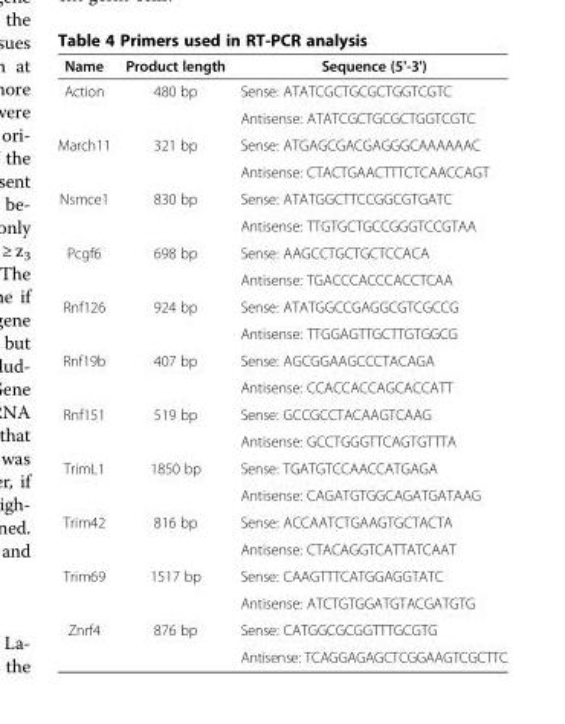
<table><thead><tr><td>Name</td><td>Product length</td><td>Sequence (5&#x27;-3&#x27;)</td></tr></thead><tbody><tr><td rowspan="2">Action</td><td rowspan="2">480 bp</td><td>Sense: ATATCGCTGCGCTGGTCGTC</td></tr><tr><td>Antisense: ATATCGCTGCGCTGGTCGTC</td></tr><tr><td rowspan="2">March11</td><td rowspan="2">321 bp</td><td>Sense: ATGAGCGACGAGGGCAAAAAAC</td></tr><tr><td>Antisense: CTACTGAACTTTCTCAACCAGT</td></tr><tr><td rowspan="2">Nsmce1</td><td rowspan="2">830 bp</td><td>Sense: ATATGGCTTCCGGCGTGATC</td></tr><tr><td>Antisense: TTGTGCTGCCGGGTCCGTAA</td></tr><tr><td rowspan="2">Pcgf6</td><td rowspan="2">698 bp</td><td>Sense: AAGCCTGCTGCTCCACA</td></tr><tr><td>Antisense: TGACCCACCCACCTCAA</td></tr><tr><td rowspan="2">Rnf126</td><td rowspan="2">924 bp</td><td>Sense: ATATGGCCGAGGCGTCGCCG</td></tr><tr><td>Antisense: TTGGAGTTGCTTGTGGCG</td></tr><tr><td rowspan="2">Rnf19b</td><td rowspan="2">407 bp</td><td>Sense: AGCGGAAGCCCTACAGA</td></tr><tr><td>Antisense: CCACCACCAGCACCATT</td></tr><tr><td rowspan="2">Rnf151</td><td rowspan="2">519 bp</td><td>Sense: GCCGCCTACAAGTCAAG</td></tr><tr><td>Antisense: GCCTGGGTTCAGTGTTTA</td></tr><tr><td rowspan="2">TrimL1</td><td rowspan="2">1850 bp</td><td>Sense: TGATGTCCAACCATGAGA</td></tr><tr><td>Antisense: CAGATGTGGCAGATGATAAG</td></tr><tr><td rowspan="2">Trim42</td><td rowspan="2">816 bp</td><td>Sense: ACCAATCTGAAGTGCTACTA</td></tr><tr><td>Antisense: CTACAGGTCATTATCAAT</td></tr><tr><td rowspan="2">Trim69</td><td rowspan="2">1517 bp</td><td>Sense: CAAGTTTCATGGAGGTATC</td></tr><tr><td>Antisense: ATCTGTGGATGTACGATGTG</td></tr><tr><td rowspan="2">Znrf4</td><td>876 bp</td><td>Sense: CATGGCGCGGTTTGCGTG</td></tr><tr><td></td><td>Antisense: TCAGGAGAGCTCGGAAGTCGCTTC</td></tr></tbody></table>